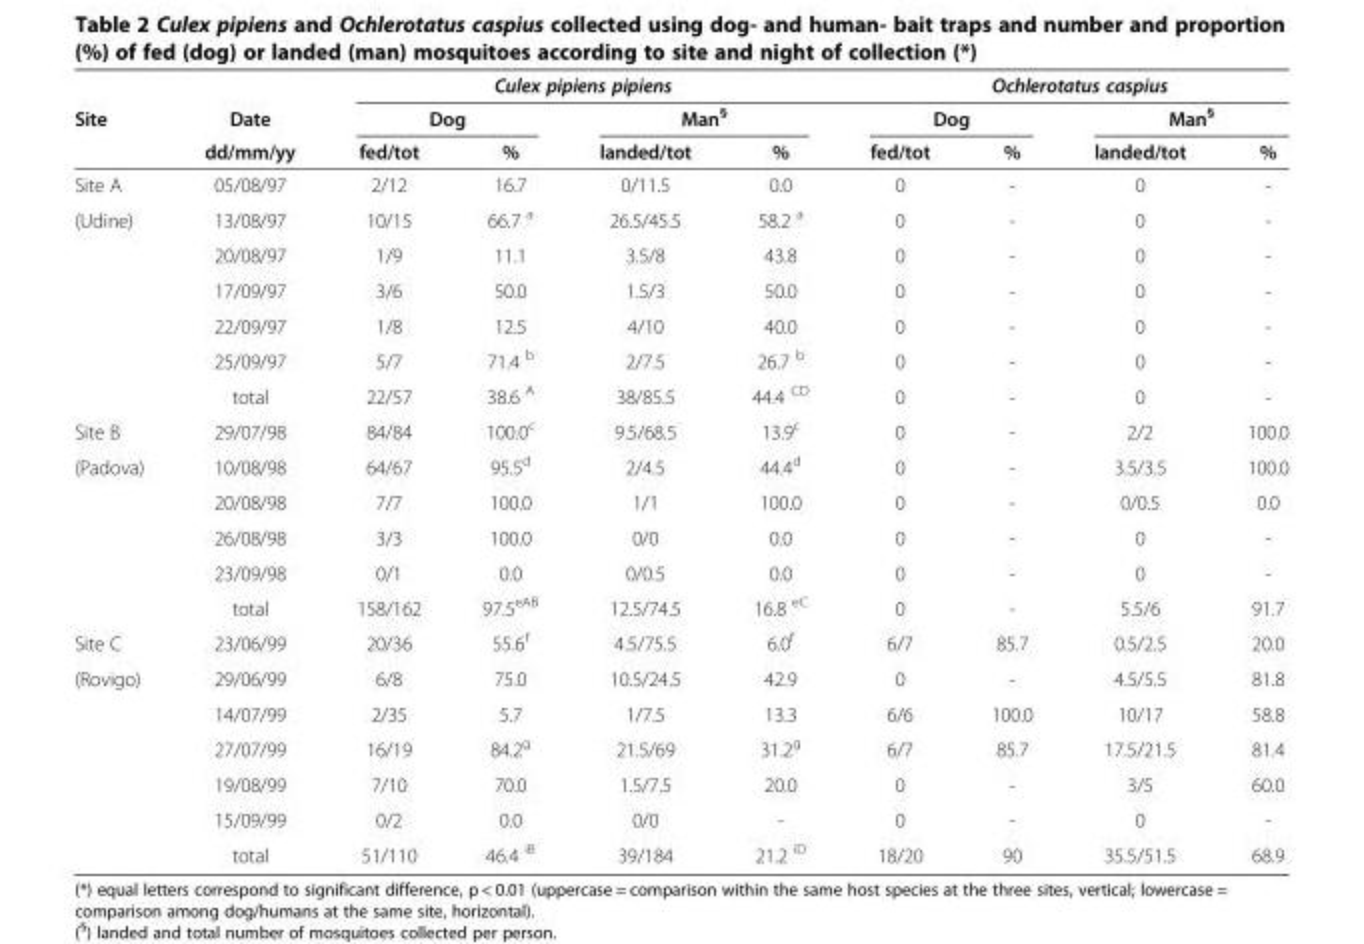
<table><thead><tr><td rowspan="3">Site</td><td rowspan="3">Date dd/mm/yy</td><td colspan="4">Culex pipiens pipiens</td><td colspan="4">Ochlerotatus caspius</td></tr><tr><td colspan="2">Dog</td><td colspan="2">Man<sup>§</sup></td><td colspan="2">Dog</td><td colspan="2">Man<sup>§</sup></td></tr><tr><td>fed/tot</td><td>%</td><td>landed/tot</td><td>%</td><td>fed/tot</td><td>%</td><td>landed/tot</td><td>%</td></tr></thead><tbody><tr><td>Site A</td><td>05/08/97</td><td>2/12</td><td>16.7</td><td>0/11.5</td><td>0.0</td><td>0</td><td>-</td><td>0</td><td>-</td></tr><tr><td rowspan="6">(Udine)</td><td>13/08/97</td><td>10/15</td><td>66.7 <sup>a</sup></td><td>26.5/45.5</td><td>58.2 <sup>a</sup></td><td>0</td><td>-</td><td>0</td><td>-</td></tr><tr><td>20/08/97</td><td>1/9</td><td>11.1</td><td>3.5/8</td><td>43.8</td><td>0</td><td>-</td><td>0</td><td>-</td></tr><tr><td>17/09/97</td><td>3/6</td><td>50.0</td><td>1.5/3</td><td>50.0</td><td>0</td><td>-</td><td>0</td><td>-</td></tr><tr><td>22/09/97</td><td>1/8</td><td>12.5</td><td>4/10</td><td>40.0</td><td>0</td><td>-</td><td>0</td><td>-</td></tr><tr><td>25/09/97</td><td>5/7</td><td>71.4 <sup>b</sup></td><td>2/7.5</td><td>26.7 <sup>b</sup></td><td>0</td><td>-</td><td>0</td><td>-</td></tr><tr><td>total</td><td>22/57</td><td>38.6 <sup>A</sup></td><td>38/85.5</td><td>44.4 <sup>CD</sup></td><td>0</td><td>-</td><td>0</td><td>-</td></tr><tr><td>Site B</td><td>29/07/98</td><td>84/84</td><td>100.0<sup>c</sup></td><td>9.5/68.5</td><td>13.9<sup>c</sup></td><td>0</td><td>-</td><td>2/2</td><td>100.0</td></tr><tr><td rowspan="5">(Padova)</td><td>10/08/98</td><td>64/67</td><td>95.5<sup>d</sup></td><td>2/4.5</td><td>44.4<sup>d</sup></td><td>0</td><td>-</td><td>3.5/3.5</td><td>100.0</td></tr><tr><td>20/08/98</td><td>7/7</td><td>100.0</td><td>1/1</td><td>100.0</td><td>0</td><td>-</td><td>0/0.5</td><td>0.0</td></tr><tr><td>26/08/98</td><td>3/3</td><td>100.0</td><td>0/0</td><td>0.0</td><td>0</td><td>-</td><td>0</td><td>-</td></tr><tr><td>23/09/98</td><td>0/1</td><td>0.0</td><td>0/0.5</td><td>0.0</td><td>0</td><td>-</td><td>0</td><td>-</td></tr><tr><td>total</td><td>158/162</td><td>97.5<sup>eAB</sup></td><td>12.5/74.5</td><td>16.8 <sup>eC</sup></td><td>0</td><td>-</td><td>5.5/6</td><td>91.7</td></tr><tr><td>Site C</td><td>23/06/99</td><td>20/36</td><td>55.6<sup>f</sup></td><td>4.5/75.5</td><td>6.0<sup>f</sup></td><td>6/7</td><td>85.7</td><td>0.5/2.5</td><td>20.0</td></tr><tr><td rowspan="6">(Rovigo)</td><td>29/06/99</td><td>6/8</td><td>75.0</td><td>10.5/24.5</td><td>42.9</td><td>0</td><td>-</td><td>4.5/5.5</td><td>81.8</td></tr><tr><td>14/07/99</td><td>2/35</td><td>5.7</td><td>1/7.5</td><td>13.3</td><td>6/6</td><td>100.0</td><td>10/17</td><td>58.8</td></tr><tr><td>27/07/99</td><td>16/19</td><td>84.2<sup>g</sup></td><td>21.5/69</td><td>31.2<sup>g</sup></td><td>6/7</td><td>85.7</td><td>17.5/21.5</td><td>81.4</td></tr><tr><td>19/08/99</td><td>7/10</td><td>70.0</td><td>1.5/7.5</td><td>20.0</td><td>0</td><td>-</td><td>3/5</td><td>60.0</td></tr><tr><td>15/09/99</td><td>0/2</td><td>0.0</td><td>0/0</td><td>-</td><td>0</td><td>-</td><td>0</td><td>-</td></tr><tr><td>total</td><td>51/110</td><td>46.4 <sup>iB</sup></td><td>39/184</td><td>21.2 <sup>iD</sup></td><td>18/20</td><td>90</td><td>35.5/51.5</td><td>68.9</td></tr></tbody></table>